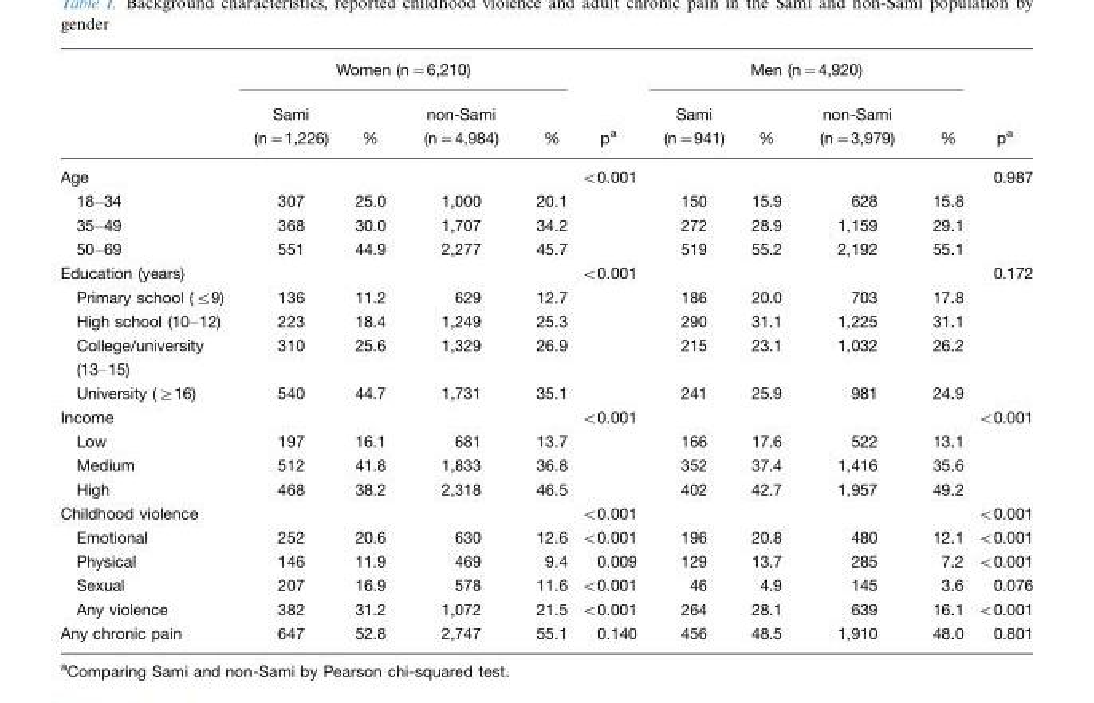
<table><thead><tr><td rowspan="2"></td><td colspan="4">Women (n=6,210)</td><td rowspan="2">p<sup>a</sup></td><td colspan="4">Men (n=4,920)</td><td rowspan="2">p<sup>a</sup></td></tr><tr><td>Sami (n=1,226)</td><td>%</td><td>non-Sami (n=4,984)</td><td>%</td><td>Sami (n=941)</td><td>%</td><td>non-Sami (n=3,979)</td><td>%</td></tr></thead><tbody><tr><td>Age</td><td></td><td></td><td></td><td></td><td>&lt;0.001</td><td></td><td></td><td></td><td></td><td>0.987</td></tr><tr><td>18–34</td><td>307</td><td>25.0</td><td>1,000</td><td>20.1</td><td></td><td>150</td><td>15.9</td><td>628</td><td>15.8</td><td></td></tr><tr><td>35–49</td><td>368</td><td>30.0</td><td>1,707</td><td>34.2</td><td></td><td>272</td><td>28.9</td><td>1,159</td><td>29.1</td><td></td></tr><tr><td>50–69</td><td>551</td><td>44.9</td><td>2,277</td><td>45.7</td><td></td><td>519</td><td>55.2</td><td>2,192</td><td>55.1</td><td></td></tr><tr><td>Education (years)</td><td></td><td></td><td></td><td></td><td>&lt;0.001</td><td></td><td></td><td></td><td></td><td>0.172</td></tr><tr><td>Primary school (≤9)</td><td>136</td><td>11.2</td><td>629</td><td>12.7</td><td></td><td>186</td><td>20.0</td><td>703</td><td>17.8</td><td></td></tr><tr><td>High school (10–12)</td><td>223</td><td>18.4</td><td>1,249</td><td>25.3</td><td></td><td>290</td><td>31.1</td><td>1,225</td><td>31.1</td><td></td></tr><tr><td>College/university (13–15)</td><td>310</td><td>25.6</td><td>1,329</td><td>26.9</td><td></td><td>215</td><td>23.1</td><td>1,032</td><td>26.2</td><td></td></tr><tr><td>University (≥16)</td><td>540</td><td>44.7</td><td>1,731</td><td>35.1</td><td></td><td>241</td><td>25.9</td><td>981</td><td>24.9</td><td></td></tr><tr><td>Income</td><td></td><td></td><td></td><td></td><td>&lt;0.001</td><td></td><td></td><td></td><td></td><td>&lt;0.001</td></tr><tr><td>Low</td><td>197</td><td>16.1</td><td>681</td><td>13.7</td><td></td><td>166</td><td>17.6</td><td>522</td><td>13.1</td><td></td></tr><tr><td>Medium</td><td>512</td><td>41.8</td><td>1,833</td><td>36.8</td><td></td><td>352</td><td>37.4</td><td>1,416</td><td>35.6</td><td></td></tr><tr><td>High</td><td>468</td><td>38.2</td><td>2,318</td><td>46.5</td><td></td><td>402</td><td>42.7</td><td>1,957</td><td>49.2</td><td></td></tr><tr><td>Childhood violence</td><td></td><td></td><td></td><td></td><td>&lt;0.001</td><td></td><td></td><td></td><td></td><td>&lt;0.001</td></tr><tr><td>Emotional</td><td>252</td><td>20.6</td><td>630</td><td>12.6</td><td>&lt;0.001</td><td>196</td><td>20.8</td><td>480</td><td>12.1</td><td>&lt;0.001</td></tr><tr><td>Physical</td><td>146</td><td>11.9</td><td>469</td><td>9.4</td><td>0.009</td><td>129</td><td>13.7</td><td>285</td><td>7.2</td><td>&lt;0.001</td></tr><tr><td>Sexual</td><td>207</td><td>16.9</td><td>578</td><td>11.6</td><td>&lt;0.001</td><td>46</td><td>4.9</td><td>145</td><td>3.6</td><td>0.076</td></tr><tr><td>Any violence</td><td>382</td><td>31.2</td><td>1,072</td><td>21.5</td><td>&lt;0.001</td><td>264</td><td>28.1</td><td>639</td><td>16.1</td><td>&lt;0.001</td></tr><tr><td>Any chronic pain</td><td>647</td><td>52.8</td><td>2,747</td><td>55.1</td><td>0.140</td><td>456</td><td>48.5</td><td>1,910</td><td>48.0</td><td>0.801</td></tr></tbody></table>